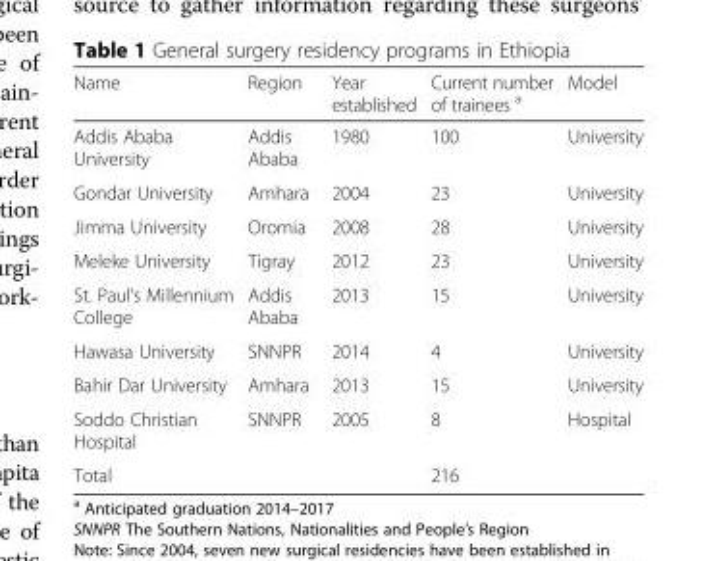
<table><thead><tr><td>Name</td><td>Region</td><td>Year established</td><td>Current number of trainees <sup>a</sup></td><td>Model</td></tr></thead><tbody><tr><td>Addis Ababa University</td><td>Addis Ababa</td><td>1980</td><td>100</td><td>University</td></tr><tr><td>Gondar University</td><td>Amhara</td><td>2004</td><td>23</td><td>University</td></tr><tr><td>Jimma University</td><td>Oromia</td><td>2008</td><td>28</td><td>University</td></tr><tr><td>Meleke University</td><td>Tigray</td><td>2012</td><td>23</td><td>University</td></tr><tr><td>St. Paul’s Millennium College</td><td>Addis Ababa</td><td>2013</td><td>15</td><td>University</td></tr><tr><td>Hawasa University</td><td>SNNPR</td><td>2014</td><td>4</td><td>University</td></tr><tr><td>Bahir Dar University</td><td>Amhara</td><td>2013</td><td>15</td><td>University</td></tr><tr><td>Soddo Christian Hospital</td><td>SNNPR</td><td>2005</td><td>8</td><td>Hospital</td></tr><tr><td>Total</td><td></td><td></td><td>216</td><td></td></tr></tbody></table>